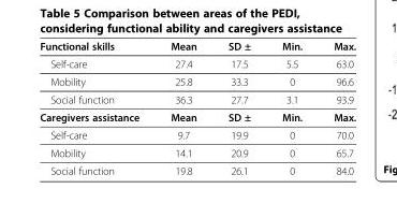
<table><thead><tr><td>Functional skills</td><td>Mean</td><td>SD ±</td><td>Min.</td><td>Max.</td></tr></thead><tbody><tr><td>Self-care</td><td>27.4</td><td>17.5</td><td>5.5</td><td>63.0</td></tr><tr><td>Mobility</td><td>25.8</td><td>33.3</td><td>0</td><td>96.6</td></tr><tr><td>Social function</td><td>36.3</td><td>27.7</td><td>3.1</td><td>93.9</td></tr><tr><td>Caregivers assistance</td><td>Mean</td><td>SD ±</td><td>Min.</td><td>Max.</td></tr><tr><td>Self-care</td><td>9.7</td><td>19.9</td><td>0</td><td>70.0</td></tr><tr><td>Mobility</td><td>14.1</td><td>20.9</td><td>0</td><td>65.7</td></tr><tr><td>Social function</td><td>19.8</td><td>26.1</td><td>0</td><td>84.0</td></tr></tbody></table>